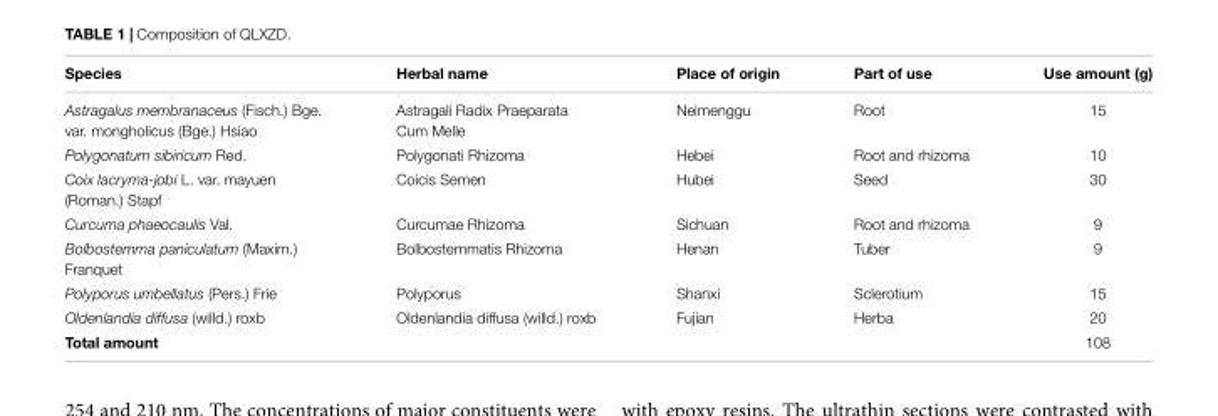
<table><thead><tr><td>Species</td><td>Herbal name</td><td>Place of origin</td><td>Part of use</td><td>Use amount (g)</td></tr></thead><tbody><tr><td>Astragalus membranaceus (Fisch.) Bge. var. mongholicus (Bge.) Hsiao</td><td>Astragali Radix Praeparata Cum Melle</td><td>Neimenggu</td><td>Root</td><td>15</td></tr><tr><td>Polygonatum sibiricum Red.</td><td>Polygonati Rhizoma</td><td>Hebei</td><td>Root and rhizoma</td><td>10</td></tr><tr><td>Coix lacryma-jobi L. var. mayuen (Roman.) Stapf</td><td>Coicis Semen</td><td>Hubei</td><td>Seed</td><td>30</td></tr><tr><td>Curcuma phaeocaulis Val.</td><td>Curcumae Rhizoma</td><td>Sichuan</td><td>Root and rhizoma</td><td>9</td></tr><tr><td>Bolbostemma paniculatum (Maxim.) Franquet</td><td>Bolbostemmatis Rhizoma</td><td>Henan</td><td>Tuber</td><td>9</td></tr><tr><td>Polyporus umbellatus (Pers.) Frie</td><td>Polyporus</td><td>Shanxi</td><td>Sclerotium</td><td>15</td></tr><tr><td>Oldenlandia diffusa (willd.) roxb</td><td>Oldenlandia diffusa (willd.) roxb</td><td>Fujian</td><td>Herba</td><td>20</td></tr><tr><td>Total amount</td><td></td><td></td><td></td><td>108</td></tr></tbody></table>